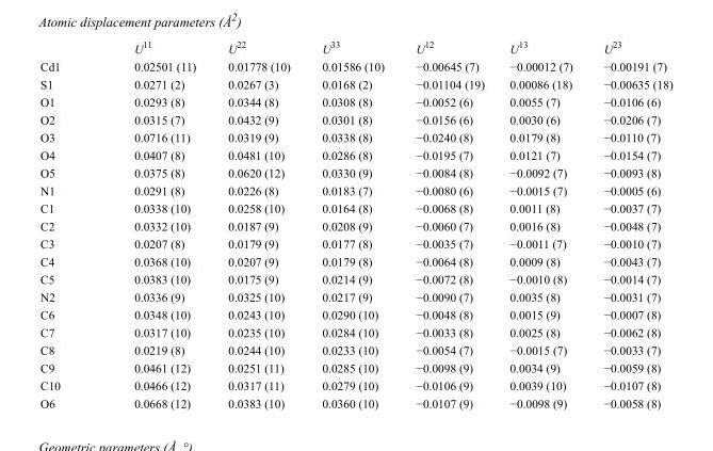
<table><thead><tr><td></td><td>U<sup>11</sup></td><td>U<sup>22</sup></td><td>U<sup>33</sup></td><td>U<sup>12</sup></td><td>U<sup>13</sup></td><td>U<sup>23</sup></td></tr></thead><tbody><tr><td>Cd1</td><td>0.02501 (11)</td><td>0.01778 (10)</td><td>0.01586 (10)</td><td>−0.00645 (7)</td><td>−0.00012 (7)</td><td>−0.00191 (7)</td></tr><tr><td>S1</td><td>0.0271 (2)</td><td>0.0267 (3)</td><td>0.0168 (2)</td><td>−0.01104 (19)</td><td>0.00086 (18)</td><td>−0.00635 (18)</td></tr><tr><td>O1</td><td>0.0293 (8)</td><td>0.0344 (8)</td><td>0.0308 (8)</td><td>−0.0052 (6)</td><td>0.0055 (7)</td><td>−0.0106 (6)</td></tr><tr><td>O2</td><td>0.0315 (7)</td><td>0.0432 (9)</td><td>0.0301 (8)</td><td>−0.0156 (6)</td><td>0.0030 (6)</td><td>−0.0206 (7)</td></tr><tr><td>O3</td><td>0.0716 (11)</td><td>0.0319 (9)</td><td>0.0338 (8)</td><td>−0.0240 (8)</td><td>0.0179 (8)</td><td>−0.0110 (7)</td></tr><tr><td>O4</td><td>0.0407 (8)</td><td>0.0481 (10)</td><td>0.0286 (8)</td><td>−0.0195 (7)</td><td>0.0121 (7)</td><td>−0.0154 (7)</td></tr><tr><td>O5</td><td>0.0375 (8)</td><td>0.0620 (12)</td><td>0.0330 (9)</td><td>−0.0084 (8)</td><td>−0.0092 (7)</td><td>−0.0093 (8)</td></tr><tr><td>N1</td><td>0.0291 (8)</td><td>0.0226 (8)</td><td>0.0183 (7)</td><td>−0.0080 (6)</td><td>−0.0015 (7)</td><td>−0.0005 (6)</td></tr><tr><td>C1</td><td>0.0338 (10)</td><td>0.0258 (10)</td><td>0.0164 (8)</td><td>−0.0068 (8)</td><td>0.0011 (8)</td><td>−0.0037 (7)</td></tr><tr><td>C2</td><td>0.0332 (10)</td><td>0.0187 (9)</td><td>0.0208 (9)</td><td>−0.0060 (7)</td><td>0.0016 (8)</td><td>−0.0048 (7)</td></tr><tr><td>C3</td><td>0.0207 (8)</td><td>0.0179 (9)</td><td>0.0177 (8)</td><td>−0.0035 (7)</td><td>−0.0011 (7)</td><td>−0.0010 (7)</td></tr><tr><td>C4</td><td>0.0368 (10)</td><td>0.0207 (9)</td><td>0.0179 (8)</td><td>−0.0064 (8)</td><td>0.0009 (8)</td><td>−0.0043 (7)</td></tr><tr><td>C5</td><td>0.0383 (10)</td><td>0.0175 (9)</td><td>0.0214 (9)</td><td>−0.0072 (8)</td><td>−0.0010 (8)</td><td>−0.0014 (7)</td></tr><tr><td>N2</td><td>0.0336 (9)</td><td>0.0325 (10)</td><td>0.0217 (9)</td><td>−0.0090 (7)</td><td>0.0035 (8)</td><td>−0.0031 (7)</td></tr><tr><td>C6</td><td>0.0348 (10)</td><td>0.0243 (10)</td><td>0.0290 (10)</td><td>−0.0048 (8)</td><td>0.0015 (9)</td><td>−0.0007 (8)</td></tr><tr><td>C7</td><td>0.0317 (10)</td><td>0.0235 (10)</td><td>0.0284 (10)</td><td>−0.0033 (8)</td><td>0.0025 (8)</td><td>−0.0062 (8)</td></tr><tr><td>C8</td><td>0.0219 (8)</td><td>0.0244 (10)</td><td>0.0233 (10)</td><td>−0.0054 (7)</td><td>−0.0015 (7)</td><td>−0.0033 (7)</td></tr><tr><td>C9</td><td>0.0461 (12)</td><td>0.0251 (11)</td><td>0.0285 (10)</td><td>−0.0098 (9)</td><td>0.0034 (9)</td><td>−0.0059 (8)</td></tr><tr><td>C10</td><td>0.0466 (12)</td><td>0.0317 (11)</td><td>0.0279 (10)</td><td>−0.0106 (9)</td><td>0.0039 (10)</td><td>−0.0107 (8)</td></tr><tr><td>O6</td><td>0.0668 (12)</td><td>0.0383 (10)</td><td>0.0360 (10)</td><td>−0.0107 (9)</td><td>−0.0098 (9)</td><td>−0.0058 (8)</td></tr></tbody></table>